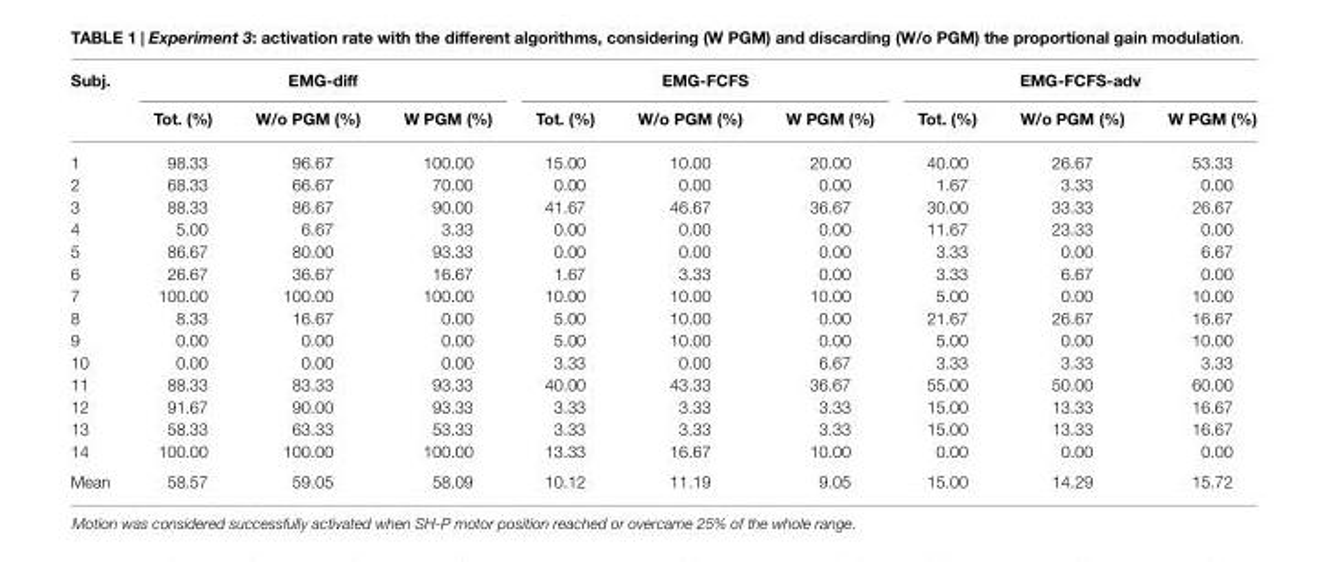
<table><thead><tr><td rowspan="2">Subj.</td><td colspan="3">EMG-diff</td><td colspan="3">EMG-FCFS</td><td colspan="3">EMG-FCFS-adv</td></tr><tr><td>Tot. (%)</td><td>W/o PGM (%)</td><td>W PGM (%)</td><td>Tot. (%)</td><td>W/o PGM (%)</td><td>W PGM (%)</td><td>Tot. (%)</td><td>W/o PGM (%)</td><td>W PGM (%)</td></tr></thead><tbody><tr><td>1</td><td>98.33</td><td>96.67</td><td>100.00</td><td>15.00</td><td>10.00</td><td>20.00</td><td>40.00</td><td>26.67</td><td>53.33</td></tr><tr><td>2</td><td>68.33</td><td>66.67</td><td>70.00</td><td>0.00</td><td>0.00</td><td>0.00</td><td>1.67</td><td>3.33</td><td>0.00</td></tr><tr><td>3</td><td>88.33</td><td>86.67</td><td>90.00</td><td>41.67</td><td>46.67</td><td>36.67</td><td>30.00</td><td>33.33</td><td>26.67</td></tr><tr><td>4</td><td>5.00</td><td>6.67</td><td>3.33</td><td>0.00</td><td>0.00</td><td>0.00</td><td>11.67</td><td>23.33</td><td>0.00</td></tr><tr><td>5</td><td>86.67</td><td>80.00</td><td>93.33</td><td>0.00</td><td>0.00</td><td>0.00</td><td>3.33</td><td>0.00</td><td>6.67</td></tr><tr><td>6</td><td>26.67</td><td>36.67</td><td>16.67</td><td>1.67</td><td>3.33</td><td>0.00</td><td>3.33</td><td>6.67</td><td>0.00</td></tr><tr><td>7</td><td>100.00</td><td>100.00</td><td>100.00</td><td>10.00</td><td>10.00</td><td>10.00</td><td>5.00</td><td>0.00</td><td>10.00</td></tr><tr><td>8</td><td>8.33</td><td>16.67</td><td>0.00</td><td>5.00</td><td>10.00</td><td>0.00</td><td>21.67</td><td>26.67</td><td>16.67</td></tr><tr><td>9</td><td>0.00</td><td>0.00</td><td>0.00</td><td>5.00</td><td>10.00</td><td>0.00</td><td>5.00</td><td>0.00</td><td>10.00</td></tr><tr><td>10</td><td>0.00</td><td>0.00</td><td>0.00</td><td>3.33</td><td>0.00</td><td>6.67</td><td>3.33</td><td>3.33</td><td>3.33</td></tr><tr><td>11</td><td>88.33</td><td>83.33</td><td>93.33</td><td>40.00</td><td>43.33</td><td>36.67</td><td>55.00</td><td>50.00</td><td>60.00</td></tr><tr><td>12</td><td>91.67</td><td>90.00</td><td>93.33</td><td>3.33</td><td>3.33</td><td>3.33</td><td>15.00</td><td>13.33</td><td>16.67</td></tr><tr><td>13</td><td>58.33</td><td>63.33</td><td>53.33</td><td>3.33</td><td>3.33</td><td>3.33</td><td>15.00</td><td>13.33</td><td>16.67</td></tr><tr><td>14</td><td>100.00</td><td>100.00</td><td>100.00</td><td>13.33</td><td>16.67</td><td>10.00</td><td>0.00</td><td>0.00</td><td>0.00</td></tr><tr><td>Mean</td><td>58.57</td><td>59.05</td><td>58.09</td><td>10.12</td><td>11.19</td><td>9.05</td><td>15.00</td><td>14.29</td><td>15.72</td></tr></tbody></table>